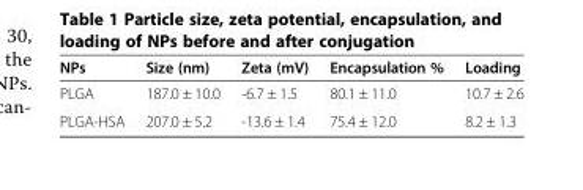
<table><thead><tr><td>NPs</td><td>Size (nm)</td><td>Zeta (mV)</td><td>Encapsulation %</td><td>Loading</td></tr></thead><tbody><tr><td>PLGA</td><td>187.0 ± 10.0</td><td>-6.7 ± 1.5</td><td>80.1 ± 11.0</td><td>10.7 ± 2.6</td></tr><tr><td>PLGA-HSA</td><td>207.0 ± 5.2</td><td>-13.6 ± 1.4</td><td>75.4 ± 12.0</td><td>8.2 ± 1.3</td></tr></tbody></table>